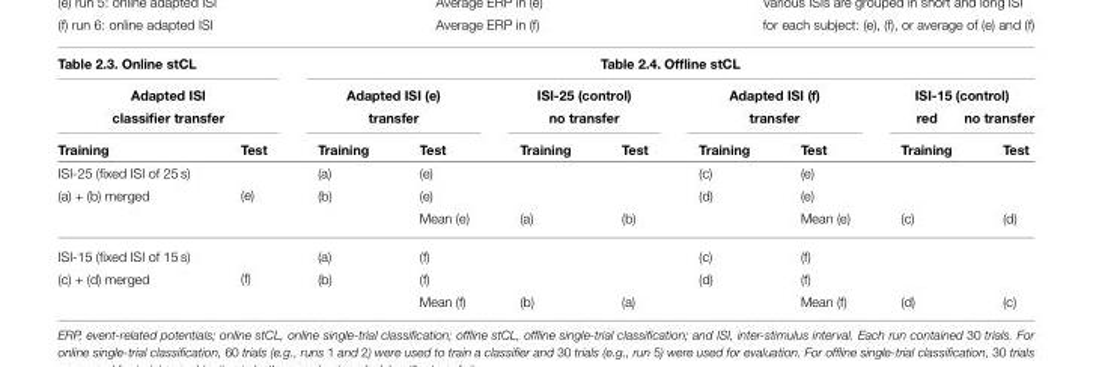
<table><thead><tr><td rowspan="2" colspan="2">Table 2.3. Online stCL Adapted ISI classifier transfer</td><td colspan="8">Table 2.4. Offline stCL</td></tr><tr><td colspan="2">Adapted ISI (e) transfer</td><td colspan="2">ISI-25 (control) no transfer</td><td colspan="2">Adapted ISI (f) transfer</td><td colspan="2">ISI-15 (control) red no transfer</td></tr><tr><td>Training</td><td>Test</td><td>Training</td><td>Test</td><td>Training</td><td>Test</td><td>Training</td><td>Test</td><td>Training</td><td>Test</td></tr></thead><tbody><tr><td>ISI-25 (fixed ISI of 25 s)</td><td rowspan="3">(e)</td><td>(a)</td><td>(e)</td><td></td><td></td><td>(c)</td><td>(e)</td><td></td><td></td></tr><tr><td rowspan="2">(a) + (b) merged</td><td>(b)</td><td>(e)</td><td></td><td></td><td>(d)</td><td>(e)</td><td></td><td></td></tr><tr><td></td><td>Mean (e)</td><td>(a)</td><td>(b)</td><td></td><td>Mean (e)</td><td>(c)</td><td>(d)</td></tr><tr><td>ISI-15 (fixed ISI of 15 s)</td><td rowspan="3">(f)</td><td>(a)</td><td>(f)</td><td></td><td></td><td>(c)</td><td>(f)</td><td></td><td></td></tr><tr><td rowspan="2">(c) + (d) merged</td><td>(b)</td><td>(f)</td><td></td><td></td><td>(d)</td><td>(f)</td><td></td><td></td></tr><tr><td></td><td>Mean (f)</td><td>(b)</td><td>(a)</td><td></td><td>Mean (f)</td><td>(d)</td><td>(c)</td></tr></tbody></table>